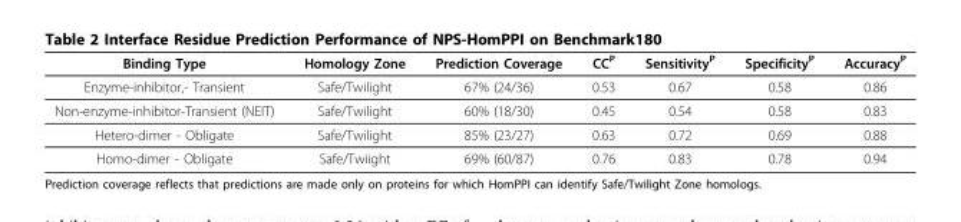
<table><thead><tr><td>Binding Type</td><td>Homology Zone</td><td>Prediction Coverage</td><td>CC<sup>P</sup></td><td>Sensitivity<sup>P</sup></td><td>Specificity<sup>P</sup></td><td>Accuracy<sup>P</sup></td></tr></thead><tbody><tr><td>Enzyme-inhibitor,- Transient</td><td>Safe/Twilight</td><td>67% (24/36)</td><td>0.53</td><td>0.67</td><td>0.58</td><td>0.86</td></tr><tr><td>Non-enzyme-inhibitor-Transient (NEIT)</td><td>Safe/Twilight</td><td>60% (18/30)</td><td>0.45</td><td>0.54</td><td>0.58</td><td>0.83</td></tr><tr><td>Hetero-dimer - Obligate</td><td>Safe/Twilight</td><td>85% (23/27)</td><td>0.63</td><td>0.72</td><td>0.69</td><td>0.88</td></tr><tr><td>Homo-dimer - Obligate</td><td>Safe/Twiight</td><td>69% (60/87)</td><td>0.76</td><td>0.83</td><td>0.78</td><td>0.94</td></tr></tbody></table>